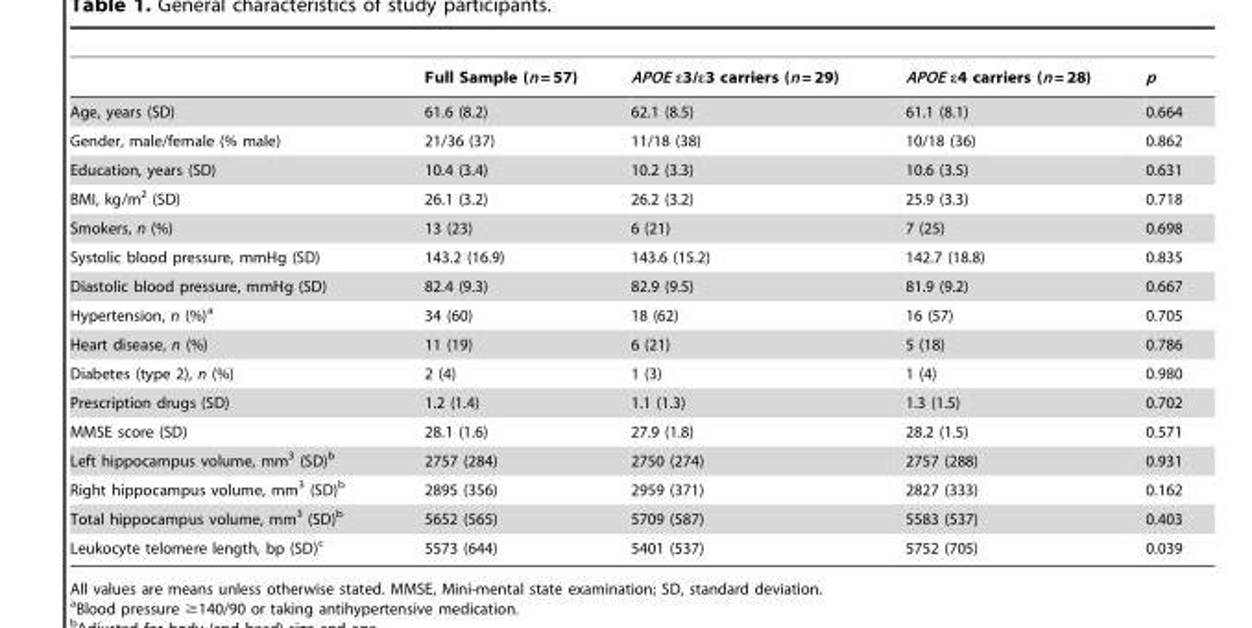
<table><thead><tr><td></td><td>Full Sample (n = 57)</td><td>APOE ε3/ε3 carriers (n = 29)</td><td>APOE ε4 carriers (n = 28)</td><td>p</td></tr></thead><tbody><tr><td>Age, years (SD)</td><td>61.6 (8.2)</td><td>62.1 (8.5)</td><td>61.1 (8.1)</td><td>0.664</td></tr><tr><td>Gender, male/female (% male)</td><td>21/36 (37)</td><td>11/18 (38)</td><td>10/18 (36)</td><td>0.862</td></tr><tr><td>Education, years (SD)</td><td>10.4 (3.4)</td><td>10.2 (3.3)</td><td>10.6 (3.5)</td><td>0.631</td></tr><tr><td>BMI, kg/m<sup>2</sup> (SD)</td><td>26.1 (3.2)</td><td>26.2 (3.2)</td><td>25.9 (3.3)</td><td>0.718</td></tr><tr><td>Smokers, n (%)</td><td>13 (23)</td><td>6 (21)</td><td>7 (25)</td><td>0.698</td></tr><tr><td>Systolic blood pressure, mmHg (SD)</td><td>143.2 (16.9)</td><td>143.6 (15.2)</td><td>142.7 (18.8)</td><td>0.835</td></tr><tr><td>Diastolic blood pressure, mmHg (SD)</td><td>82.4 (9.3)</td><td>82.9 (9.5)</td><td>81.9 (9.2)</td><td>0.667</td></tr><tr><td>Hypertension, n (%)<sup>a</sup></td><td>34 (60)</td><td>18 (62)</td><td>16 (57)</td><td>0.705</td></tr><tr><td>Heart disease, n (%)</td><td>11 (19)</td><td>6 (21)</td><td>5 (18)</td><td>0.786</td></tr><tr><td>Diabetes (type 2), n (%)</td><td>2 (4)</td><td>1 (3)</td><td>1 (4)</td><td>0.980</td></tr><tr><td>Prescription drugs (SD)</td><td>1.2 (1.4)</td><td>1.1 (1.3)</td><td>1.3 (1.5)</td><td>0.702</td></tr><tr><td>MMSE score (SD)</td><td>28.1 (1.6)</td><td>27.9 (1.8)</td><td>28.2 (1.5)</td><td>0.571</td></tr><tr><td>Left hippocampus volume, mm<sup>3</sup> (SD)<sup>b</sup></td><td>2757 (284)</td><td>2750 (274)</td><td>2757 (288)</td><td>0.931</td></tr><tr><td>Right hippocampus volume, mm<sup>3</sup> (SD)<sup>b</sup></td><td>2895 (356)</td><td>2959 (371)</td><td>2827 (333)</td><td>0.162</td></tr><tr><td>Total hippocampus volume, mm<sup>3</sup> (SD)<sup>b</sup></td><td>5652 (565)</td><td>5709 (587)</td><td>5583 (537)</td><td>0.403</td></tr><tr><td>Leukocyte telomere length, bp (SD)<sup>c</sup></td><td>5573 (644)</td><td>5401 (537)</td><td>5752 (705)</td><td>0.039</td></tr></tbody></table>